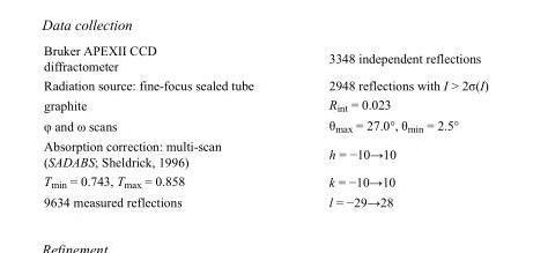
<table><tbody><tr><td>Bruker APEXII CCD diffractometer</td><td>3348 independent reflections</td></tr><tr><td>Radiation source: fine-focus sealed tube</td><td>2948 reflections with I &gt; 2σ(I)</td></tr><tr><td>graphite</td><td>R<sub>int</sub> = 0.023</td></tr><tr><td>φ and ω scans</td><td>θ<sub>max</sub> = 27.0°, θ<sub>min</sub> = 2.5°</td></tr><tr><td>Absorption correction: multi-scan (SADABS; Sheldrick, 1996)</td><td>h = −10→10</td></tr><tr><td>T<sub>min</sub> = 0.743, T<sub>max</sub> = 0.858</td><td>k = −10→10</td></tr><tr><td>9634 measured reflections</td><td>l = −29→28</td></tr></tbody></table>